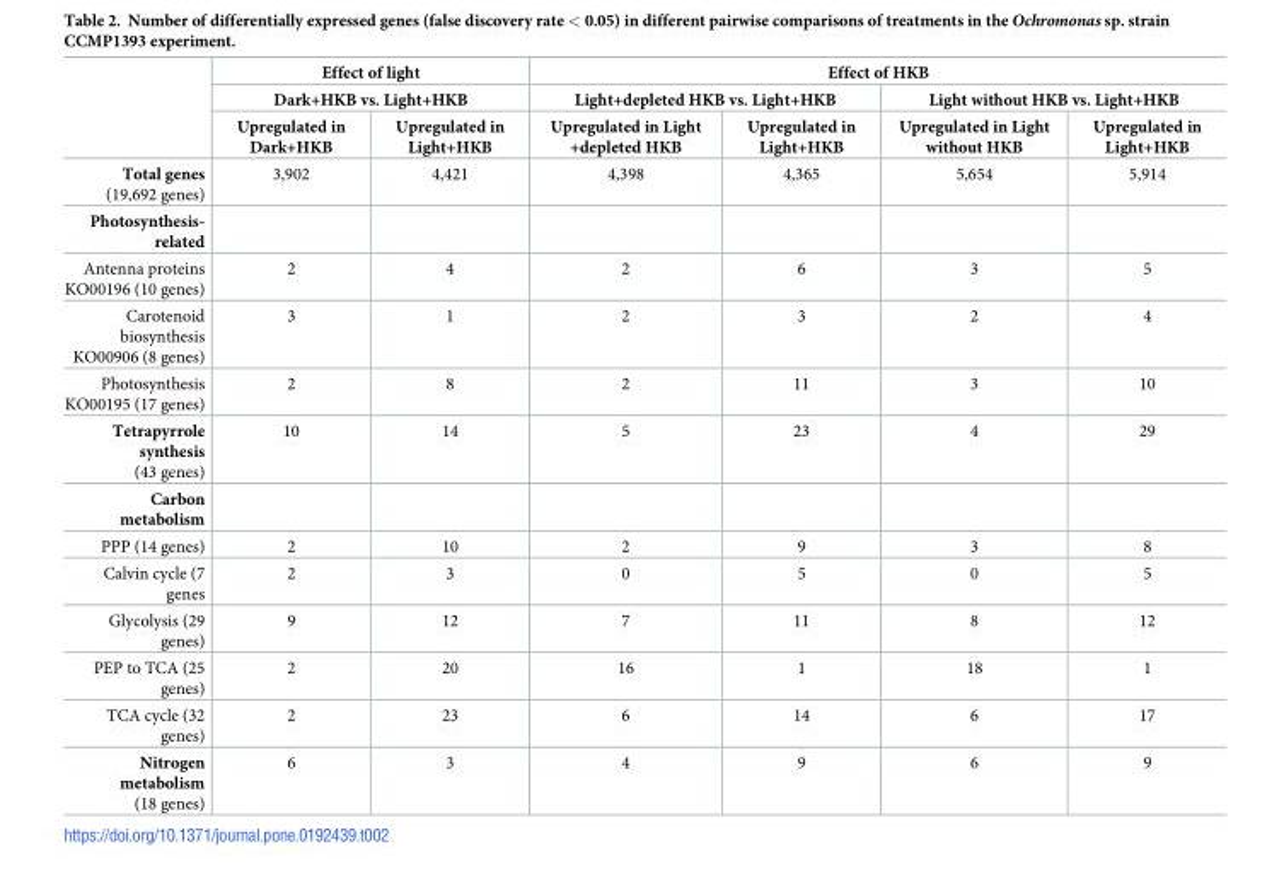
<table><thead><tr><td rowspan="3"></td><td rowspan="2" colspan="2">Effect of light Dark+HKB vs. Light+HKB</td><td colspan="4">Effect of HKB</td></tr><tr><td colspan="2">Light+depleted HKB vs. Light+HKB</td><td colspan="2">Light without HKB vs. Light+HKB</td></tr><tr><td>Upregulated in Dark+HKB</td><td>Upregulated in Light+HKB</td><td>Upregulated in Light +depleted HKB</td><td>Upregulated in Light+HKB</td><td>Upregulated in Light without HKB</td><td>Upregulated in Light+HKB</td></tr></thead><tbody><tr><td>Total genes (19,692 genes)</td><td>3,902</td><td>4,421</td><td>4,398</td><td>4,365</td><td>5,654</td><td>5,914</td></tr><tr><td colspan="7">Photosynthesis- related</td></tr><tr><td>Antenna proteins KO00196 (10 genes)</td><td>2</td><td>4</td><td>2</td><td>6</td><td>3</td><td>5</td></tr><tr><td>Carotenoid biosynthesis KO00906 (8 genes)</td><td>3</td><td>1</td><td>2</td><td>3</td><td>2</td><td>4</td></tr><tr><td>Photosynthesis KO00195 (17 genes)</td><td>2</td><td>8</td><td>2</td><td>11</td><td>3</td><td>10</td></tr><tr><td>Tetrapyrrole synthesis (43 genes)</td><td>10</td><td>14</td><td>5</td><td>23</td><td>4</td><td>29</td></tr><tr><td colspan="7">Carbon metabolism</td></tr><tr><td>PPP (14 genes)</td><td>2</td><td>10</td><td>2</td><td>9</td><td>3</td><td>8</td></tr><tr><td>Calvin cycle (7 genes</td><td>2</td><td>3</td><td>0</td><td>5</td><td>0</td><td>5</td></tr><tr><td>Glycolysis (29 genes)</td><td>9</td><td>12</td><td>7</td><td>11</td><td>8</td><td>12</td></tr><tr><td>PEP to TCA (25 genes)</td><td>2</td><td>20</td><td>16</td><td>1</td><td>18</td><td>1</td></tr><tr><td>TCA cycle (32 genes)</td><td>2</td><td>23</td><td>6</td><td>14</td><td>6</td><td>17</td></tr><tr><td>Nitrogen metabolism (18 genes)</td><td>6</td><td>3</td><td>4</td><td>9</td><td>6</td><td>9</td></tr></tbody></table>